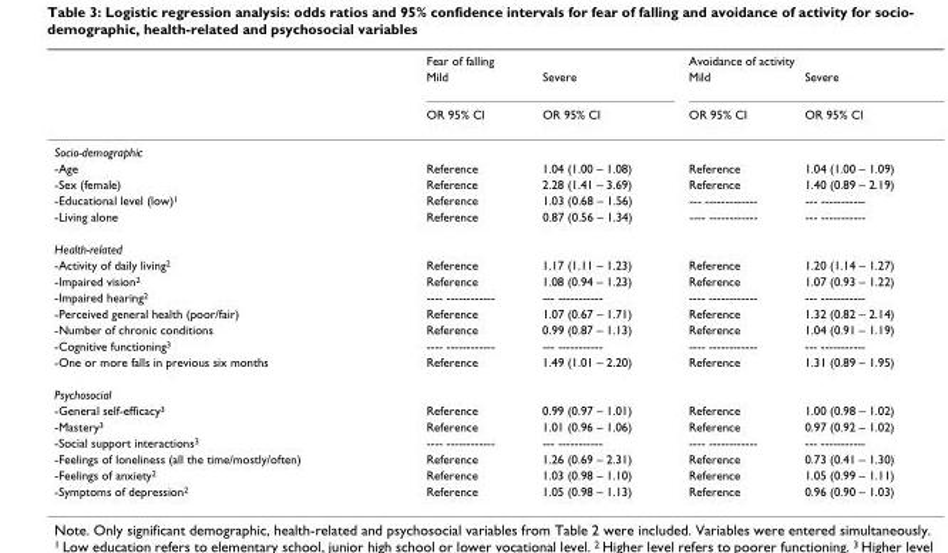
<table><thead><tr><td rowspan="3"></td><td colspan="2">Fear of falling</td><td colspan="2">Avoidance of activity</td></tr><tr><td rowspan="2">Mild OR 95% CI</td><td rowspan="2">Severe OR 95% CI</td><td rowspan="2">Mild OR 95% CI</td><td rowspan="2">Severe OR 95% CI</td></tr><tr></tr></thead><tbody><tr><td colspan="5">Socio-demographic</td></tr><tr><td>-Age</td><td>Reference</td><td>1.04 (1.00 – 1.08)</td><td>Reference</td><td>1.04 (1.00 – 1.09)</td></tr><tr><td>-Sex (female)</td><td>Reference</td><td>2.28 (1.41 – 3.69)</td><td>Reference</td><td>1.40 (0.89 – 2.19)</td></tr><tr><td>-Educational level (low)<sup>1</sup></td><td>Reference</td><td>1.03 (0.68 – 1.56)</td><td>--- -------------</td><td>--- -----------</td></tr><tr><td>-Living alone</td><td>Reference</td><td>0.87 (0.56 – 1.34)</td><td>---- ------------</td><td>--- -----------</td></tr><tr><td colspan="5">Health-related</td></tr><tr><td>-Activity of daily living<sup>2</sup></td><td>Reference</td><td>1.17 (1.11 – 1.23)</td><td>Reference</td><td>1.20 (1.14 – 1.27)</td></tr><tr><td>-Impaired vision<sup>2</sup></td><td>Reference</td><td>1.08 (0.94 – 1.23)</td><td>Reference</td><td>1.07 (0.93 – 1.22)</td></tr><tr><td>-Impaired hearing<sup>2</sup></td><td>---- ------------</td><td>--- -----------</td><td>---- ------------</td><td>--- -----------</td></tr><tr><td>-Perceived general health (poor/fair)</td><td>Reference</td><td>1.07 (0.67 – 1.71)</td><td>Reference</td><td>1.32 (0.82 – 2.14)</td></tr><tr><td>-Number of chronic conditions</td><td>Reference</td><td>0.99 (0.87 – 1.13)</td><td>Reference</td><td>1.04 (0.91 – 1.19)</td></tr><tr><td>-Cognitive functioning<sup>3</sup></td><td>---- ------------</td><td>--- -----------</td><td>---- ------------</td><td>--- -----------</td></tr><tr><td>-One or more falls in previous six months</td><td>Reference</td><td>1.49 (1.01 – 2.20)</td><td>Reference</td><td>1.31 (0.89 – 1.95)</td></tr><tr><td colspan="5">Psychosocial</td></tr><tr><td>-General self-efficacy<sup>3</sup></td><td>Reference</td><td>0.99 (0.97 – 1.01)</td><td>Reference</td><td>1.00 (0.98 – 1.02)</td></tr><tr><td>-Mastery<sup>3</sup></td><td>Reference</td><td>1.01 (0.96 – 1.06)</td><td>Reference</td><td>0.97 (0.92 – 1.02)</td></tr><tr><td>-Social support interactions<sup>3</sup></td><td>---- ------------</td><td>--- -----------</td><td>---- ------------</td><td>--- -----------</td></tr><tr><td>-Feelings of loneliness (all the time/mostly/often)</td><td>Reference</td><td>1.26 (0.69 – 2.31)</td><td>Reference</td><td>0.73 (0.41 – 1.30)</td></tr><tr><td>-Feelings of anxiety<sup>2</sup></td><td>Reference</td><td>1.03 (0.98 – 1.10)</td><td>Reference</td><td>1.05 (0.99 – 1.11)</td></tr><tr><td>-Symptoms of depression<sup>2</sup></td><td>Reference</td><td>1.05 (0.98 – 1.13)</td><td>Reference</td><td>0.96 (0.90 – 1.03)</td></tr></tbody></table>